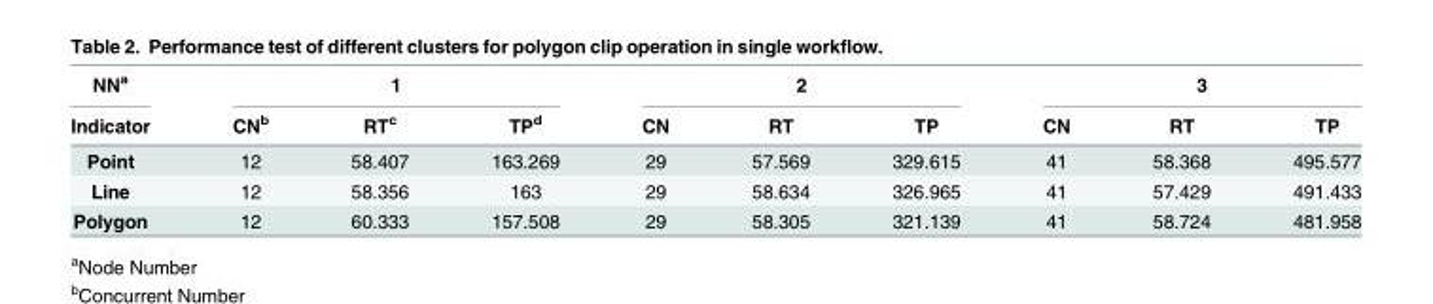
<table><thead><tr><td rowspan="2">NN<sup>a</sup> Indicator</td><td colspan="3">1</td><td colspan="3">2</td><td colspan="3">3</td></tr><tr><td>CN<sup>b</sup></td><td>RT<sup>c</sup></td><td>TP<sup>d</sup></td><td>CN</td><td>RT</td><td>TP</td><td>CN</td><td>RT</td><td>TP</td></tr></thead><tbody><tr><td>Point</td><td>12</td><td>58.407</td><td>163.269</td><td>29</td><td>57.569</td><td>329.615</td><td>41</td><td>58.368</td><td>495.577</td></tr><tr><td>Line</td><td>12</td><td>58.356</td><td>163</td><td>29</td><td>58.634</td><td>326.965</td><td>41</td><td>57.429</td><td>491.433</td></tr><tr><td>Polygon</td><td>12</td><td>60.333</td><td>157.508</td><td>29</td><td>58.305</td><td>321.139</td><td>41</td><td>58.724</td><td>481.958</td></tr></tbody></table>